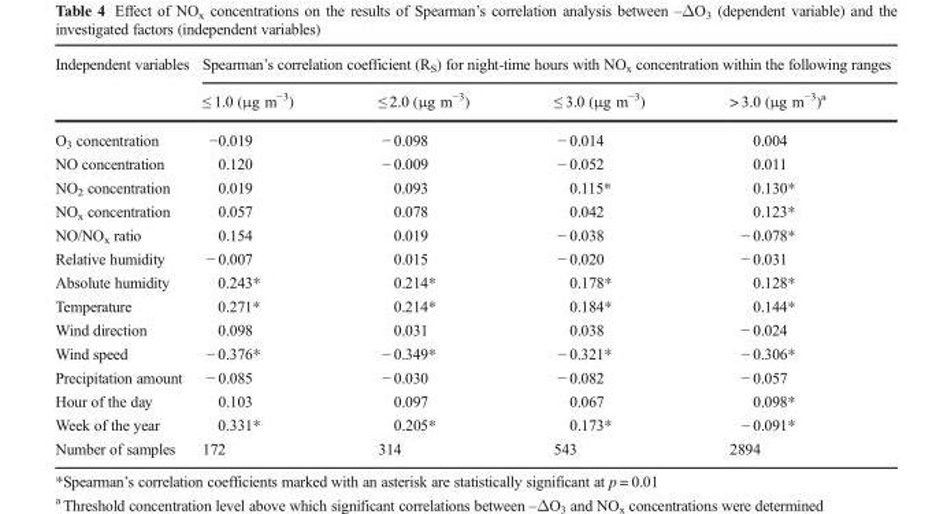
<table><thead><tr><td rowspan="2">Independent variables</td><td colspan="4">Spearman’s correlation coefficient (R<sub>S</sub>) for night-time hours with NO<sub>x</sub> concentration within the following ranges</td></tr><tr><td>≤ 1.0 (μg m<sup>−3</sup>)</td><td>≤ 2.0 (μg m<sup>−3</sup>)</td><td>≤ 3.0 (μg m<sup>−3</sup>)</td><td>&gt; 3.0 (μg m<sup>−3</sup>)<sup>a</sup></td></tr></thead><tbody><tr><td>O<sub>3</sub> concentration</td><td>−0.019</td><td>− 0.098</td><td>− 0.014</td><td>0.004</td></tr><tr><td>NO concentration</td><td>0.120</td><td>− 0.009</td><td>− 0.052</td><td>0.011</td></tr><tr><td>NO<sub>2</sub> concentration</td><td>0.019</td><td>0.093</td><td>0.115*</td><td>0.130*</td></tr><tr><td>NO<sub>x</sub> concentration</td><td>0.057</td><td>0.078</td><td>0.042</td><td>0.123*</td></tr><tr><td>NO/NO<sub>x</sub> ratio</td><td>0.154</td><td>0.019</td><td>− 0.038</td><td>− 0.078*</td></tr><tr><td>Relative humidity</td><td>− 0.007</td><td>0.015</td><td>− 0.020</td><td>− 0.031</td></tr><tr><td>Absolute humidity</td><td>0.243*</td><td>0.214*</td><td>0.178*</td><td>0.128*</td></tr><tr><td>Temperature</td><td>0.271*</td><td>0.214*</td><td>0.184*</td><td>0.144*</td></tr><tr><td>Wind direction</td><td>0.098</td><td>0.031</td><td>0.038</td><td>− 0.024</td></tr><tr><td>Wind speed</td><td>− 0.376*</td><td>− 0.349*</td><td>− 0.321*</td><td>− 0.306*</td></tr><tr><td>Precipitation amount</td><td>− 0.085</td><td>− 0.030</td><td>− 0.082</td><td>− 0.057</td></tr><tr><td>Hour of the day</td><td>0.103</td><td>0.097</td><td>0.067</td><td>0.098*</td></tr><tr><td>Week of the year</td><td>0.331*</td><td>0.205*</td><td>0.173*</td><td>− 0.091*</td></tr><tr><td>Number of samples</td><td>172</td><td>314</td><td>543</td><td>2894</td></tr></tbody></table>